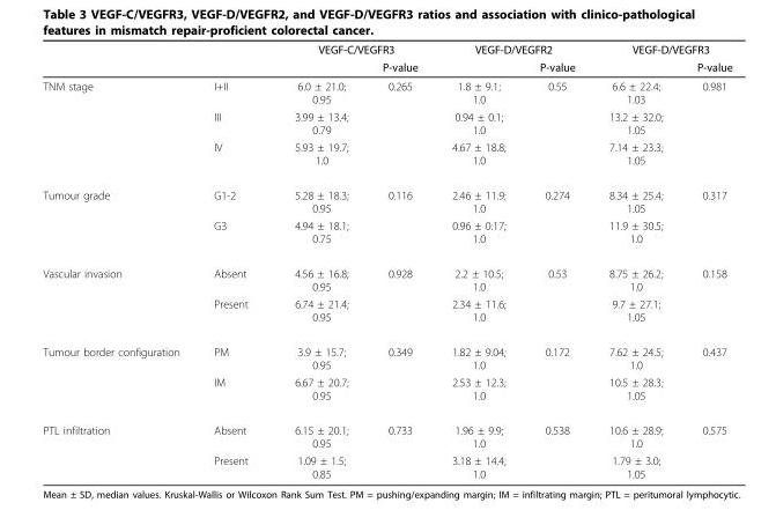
<table><thead><tr><td rowspan="2"></td><td rowspan="2"></td><td colspan="2">VEGF-C/VEGFR3</td><td colspan="2">VEGF-D/VEGFR2</td><td colspan="2">VEGF-D/VEGFR3</td></tr><tr><td></td><td>P-value</td><td></td><td>P-value</td><td></td><td>P-value</td></tr></thead><tbody><tr><td rowspan="3">TNM stage</td><td>I+II</td><td>6.0 ± 21.0; 0.95</td><td>0.265</td><td>1.8 ± 9.1; 1.0</td><td>0.55</td><td>6.6 ± 22.4; 1.03</td><td>0.981</td></tr><tr><td>III</td><td>3.99 ± 13.4; 0.79</td><td></td><td>0.94 ± 0.1; 1.0</td><td></td><td>13.2 ± 32.0; 1.05</td><td></td></tr><tr><td>IV</td><td>5.93 ± 19.7; 1.0</td><td></td><td>4.67 ± 18.8; 1.0</td><td></td><td>7.14 ± 23.3; 1.05</td><td></td></tr><tr><td rowspan="2">Tumour grade</td><td>G1-2</td><td>5.28 ± 18.3; 0.95</td><td>0.116</td><td>2.46 ± 11.9; 1.0</td><td>0.274</td><td>8.34 ± 25.4; 1.05</td><td>0.317</td></tr><tr><td>G3</td><td>4.94 ± 18.1; 0.75</td><td></td><td>0.96 ± 0.17; 1.0</td><td></td><td>11.9 ± 30.5; 1.0</td><td></td></tr><tr><td rowspan="2">Vascular invasion</td><td>Absent</td><td>4.56 ± 16.8; 0.95</td><td>0.928</td><td>2.2 ± 10.5; 1.0</td><td>0.53</td><td>8.75 ± 26.2; 1.0</td><td>0.158</td></tr><tr><td>Present</td><td>6.74 ± 21.4; 0.95</td><td></td><td>2.34 ± 11.6; 1.0</td><td></td><td>9.7 ± 27.1; 1.05</td><td></td></tr><tr><td rowspan="2">Tumour border configuration</td><td>PM</td><td>3.9 ± 15.7; 0.95</td><td>0.349</td><td>1.82 ± 9.04; 1.0</td><td>0.172</td><td>7.62 ± 24.5; 1.0</td><td>0.437</td></tr><tr><td>IM</td><td>6.67 ± 20.7; 0.95</td><td></td><td>2.53 ± 12.3; 1.0</td><td></td><td>10.5 ± 28.3; 1.05</td><td></td></tr><tr><td rowspan="2">PTL infiltration</td><td>Absent</td><td>6.15 ± 20.1; 0.95</td><td>0.733</td><td>1.96 ± 9.9; 1.0</td><td>0.538</td><td>10.6 ± 28.9; 1.0</td><td>0.575</td></tr><tr><td>Present</td><td>1.09 ± 1.5; 0.85</td><td></td><td>3.18 ± 14.4; 1.0</td><td></td><td>1.79 ± 3.0; 1.05</td><td></td></tr></tbody></table>